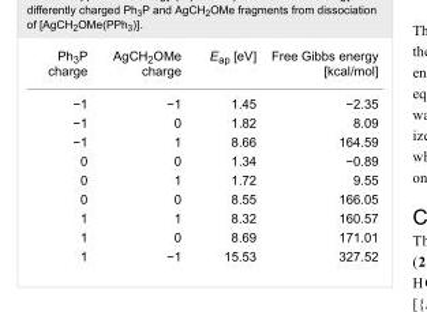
<table><tbody><tr><td>Ph<sub>3</sub>P charge</td><td>AgCH<sub>2</sub>OMe charge</td><td>E<sub>ap</sub> [eV]</td><td>Free Gibbs energy [kcal/mol]</td></tr><tr><td>−1</td><td>−1</td><td>1.45</td><td>−2.35</td></tr><tr><td>−1</td><td>0</td><td>1.82</td><td>8.09</td></tr><tr><td>−1</td><td>1</td><td>8.66</td><td>164.59</td></tr><tr><td>0</td><td>0</td><td>1.34</td><td>−0.89</td></tr><tr><td>0</td><td>1</td><td>1.72</td><td>9.55</td></tr><tr><td>0</td><td>0</td><td>8.55</td><td>166.05</td></tr><tr><td>1</td><td>1</td><td>8.32</td><td>160.57</td></tr><tr><td>1</td><td>0</td><td>8.69</td><td>171.01</td></tr><tr><td>1</td><td>−1</td><td>15.53</td><td>327.52</td></tr></tbody></table>